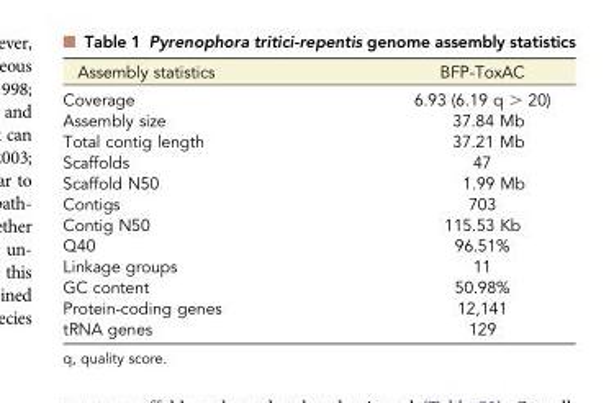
<table><thead><tr><td>Assembly statistics</td><td>BFP-ToxAC</td></tr></thead><tbody><tr><td>Coverage</td><td>6.93 (6.19 q &gt; 20)</td></tr><tr><td>Assembly size</td><td>37.84 Mb</td></tr><tr><td>Total contig length</td><td>37.21 Mb</td></tr><tr><td>Scaffolds</td><td>47</td></tr><tr><td>Scaffold N50</td><td>1.99 Mb</td></tr><tr><td>Contigs</td><td>703</td></tr><tr><td>Contig N50</td><td>115.53 Kb</td></tr><tr><td>Q40</td><td>96.51%</td></tr><tr><td>Linkage groups</td><td>11</td></tr><tr><td>GC content</td><td>50.98%</td></tr><tr><td>Protein-coding genes</td><td>12,141</td></tr><tr><td>tRNA genes</td><td>129</td></tr></tbody></table>